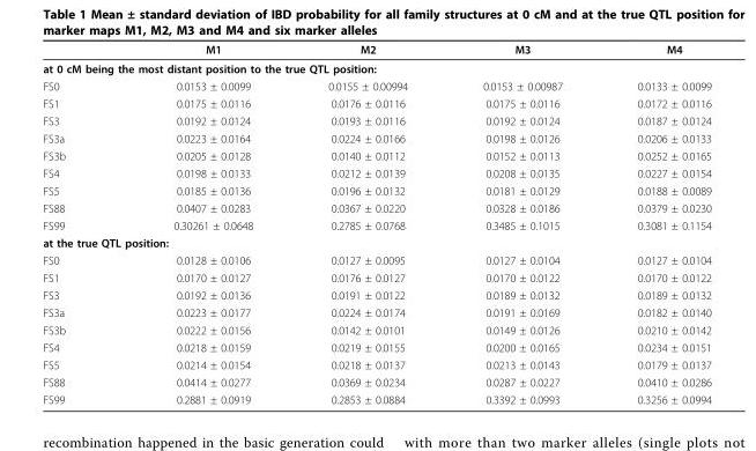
<table><thead><tr><td></td><td>M1</td><td>M2</td><td>M3</td><td>M4</td></tr></thead><tbody><tr><td colspan="5">at 0 cM being the most distant position to the true QTL position:</td></tr><tr><td>FS0</td><td>0.0153 ± 0.0099</td><td>0.0155 ± 0.00994</td><td>0.0153 ± 0.00987</td><td>0.0133 ± 0.0099</td></tr><tr><td>FS1</td><td>0.0175 ± 0.0116</td><td>0.0176 ± 0.0116</td><td>0.0175 ± 0.0116</td><td>0.0172 ± 0.0116</td></tr><tr><td>FS3</td><td>0.0192 ± 0.0124</td><td>0.0193 ± 0.0116</td><td>0.0192 ± 0.0124</td><td>0.0187 ± 0.0124</td></tr><tr><td>FS3a</td><td>0.0223 ± 0.0164</td><td>0.0224 ± 0.0166</td><td>0.0198 ± 0.0126</td><td>0.0206 ± 0.0133</td></tr><tr><td>FS3b</td><td>0.0205 ± 0.0128</td><td>0.0140 ± 0.0112</td><td>0.0152 ± 0.0113</td><td>0.0252 ± 0.0165</td></tr><tr><td>FS4</td><td>0.0198 ± 0.0133</td><td>0.0212 ± 0.0139</td><td>0.0208 ± 0.0135</td><td>0.0227 ± 0.0154</td></tr><tr><td>FS5</td><td>0.0185 ± 0.0136</td><td>0.0196 ± 0.0132</td><td>0.0181 ± 0.0129</td><td>0.0188 ± 0.0089</td></tr><tr><td>FS88</td><td>0.0407 ± 0.0283</td><td>0.0367 ± 0.0220</td><td>0.0328 ± 0.0186</td><td>0.0379 ± 0.0230</td></tr><tr><td>FS99</td><td>0.30261 ± 0.0648</td><td>0.2785 ± 0.0768</td><td>0.3485 ± 0.1015</td><td>0.3081 ± 0.1154</td></tr><tr><td colspan="5">at the true QTL position:</td></tr><tr><td>FS0</td><td>0.0128 ± 0.0106</td><td>0.0127 ± 0.0095</td><td>0.0127 ± 0.0104</td><td>0.0127 ± 0.0104</td></tr><tr><td>FS1</td><td>0.0170 ± 0.0127</td><td>0.0176 ± 0.0127</td><td>0.0170 ± 0.0122</td><td>0.0170 ± 0.0122</td></tr><tr><td>FS3</td><td>0.0192 ± 0.0136</td><td>0.0191 ± 0.0122</td><td>0.0189 ± 0.0132</td><td>0.0189 ± 0.0132</td></tr><tr><td>FS3a</td><td>0.0223 ± 0.0177</td><td>0.0224 ± 0.0174</td><td>0.0191 ± 0.0169</td><td>0.0182 ± 0.0140</td></tr><tr><td>FS3b</td><td>0.0222 ± 0.0156</td><td>0.0142 ± 0.0101</td><td>0.0149 ± 0.0126</td><td>0.0210 ± 0.0142</td></tr><tr><td>FS4</td><td>0.0218 ± 0.0159</td><td>0.0219 ± 0.0155</td><td>0.0200 ± 0.0165</td><td>0.0234 ± 0.0151</td></tr><tr><td>FS5</td><td>0.0214 ± 0.0154</td><td>0.0218 ± 0.0137</td><td>0.0213 ± 0.0143</td><td>0.0179 ± 0.0137</td></tr><tr><td>FS88</td><td>0.0414 ± 0.0277</td><td>0.0369 ± 0.0234</td><td>0.0287 ± 0.0227</td><td>0.0410 ± 0.0286</td></tr><tr><td>FS99</td><td>0.2881 ± 0.0919</td><td>0.2853 ± 0.0884</td><td>0.3392 ± 0.0993</td><td>0.3256 ± 0.0994</td></tr></tbody></table>